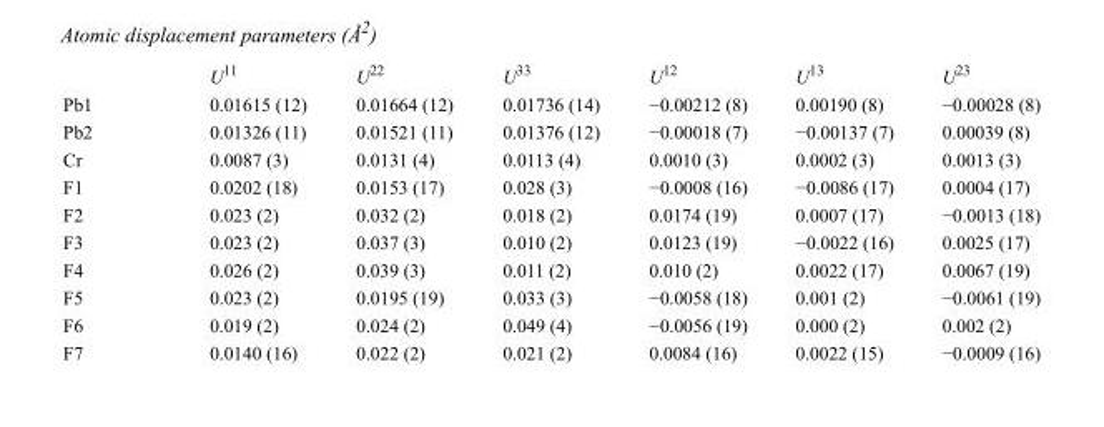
<table><thead><tr><td></td><td>U<sup>11</sup></td><td>U<sup>22</sup></td><td>U<sup>33</sup></td><td>U<sup>12</sup></td><td>U<sup>13</sup></td><td>U<sup>23</sup></td></tr></thead><tbody><tr><td>Pb1</td><td>0.01615 (12)</td><td>0.01664 (12)</td><td>0.01736 (14)</td><td>−0.00212 (8)</td><td>0.00190 (8)</td><td>−0.00028 (8)</td></tr><tr><td>Pb2</td><td>0.01326 (11)</td><td>0.01521 (11)</td><td>0.01376 (12)</td><td>−0.00018 (7)</td><td>−0.00137 (7)</td><td>0.00039 (8)</td></tr><tr><td>Cr</td><td>0.0087 (3)</td><td>0.0131 (4)</td><td>0.0113 (4)</td><td>0.0010 (3)</td><td>0.0002 (3)</td><td>0.0013 (3)</td></tr><tr><td>F1</td><td>0.0202 (18)</td><td>0.0153 (17)</td><td>0.028 (3)</td><td>−0.0008 (16)</td><td>−0.0086 (17)</td><td>0.0004 (17)</td></tr><tr><td>F2</td><td>0.023 (2)</td><td>0.032 (2)</td><td>0.018 (2)</td><td>0.0174 (19)</td><td>0.0007 (17)</td><td>−0.0013 (18)</td></tr><tr><td>F3</td><td>0.023 (2)</td><td>0.037 (3)</td><td>0.010 (2)</td><td>0.0123 (19)</td><td>−0.0022 (16)</td><td>0.0025 (17)</td></tr><tr><td>F4</td><td>0.026 (2)</td><td>0.039 (3)</td><td>0.011 (2)</td><td>0.010 (2)</td><td>0.0022 (17)</td><td>0.0067 (19)</td></tr><tr><td>F5</td><td>0.023 (2)</td><td>0.0195 (19)</td><td>0.033 (3)</td><td>−0.0058 (18)</td><td>0.001 (2)</td><td>−0.0061 (19)</td></tr><tr><td>F6</td><td>0.019 (2)</td><td>0.024 (2)</td><td>0.049 (4)</td><td>−0.0056 (19)</td><td>0.000 (2)</td><td>0.002 (2)</td></tr><tr><td>F7</td><td>0.0140 (16)</td><td>0.022 (2)</td><td>0.021 (2)</td><td>0.0084 (16)</td><td>0.0022 (15)</td><td>−0.0009 (16)</td></tr></tbody></table>